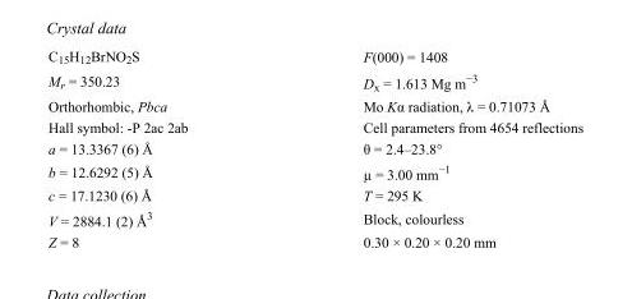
<table><tbody><tr><td>C<sub>15</sub>H<sub>12</sub>BrNO<sub>2</sub>S</td><td>F(000) = 1408</td></tr><tr><td>M<sub>r</sub> = 350.23</td><td>D<sub>x</sub> = 1.613 Mg m<sup>−3</sup></td></tr><tr><td>Orthorhombic, Pbca</td><td>Mo Kα radiation, λ = 0.71073 Å</td></tr><tr><td>Hall symbol: -P 2ac 2ab</td><td>Cell parameters from 4654 reflections</td></tr><tr><td>a = 13.3367 (6) Å</td><td>θ = 2.4–23.8°</td></tr><tr><td>b = 12.6292 (5) Å</td><td>µ = 3.00 mm<sup>−1</sup></td></tr><tr><td>c = 17.1230 (6) Å</td><td>T = 295 K</td></tr><tr><td>V = 2884.1 (2) Å<sup>3</sup></td><td>Block, colourless</td></tr><tr><td>Z = 8</td><td>0.30 × 0.20 × 0.20 mm</td></tr></tbody></table>